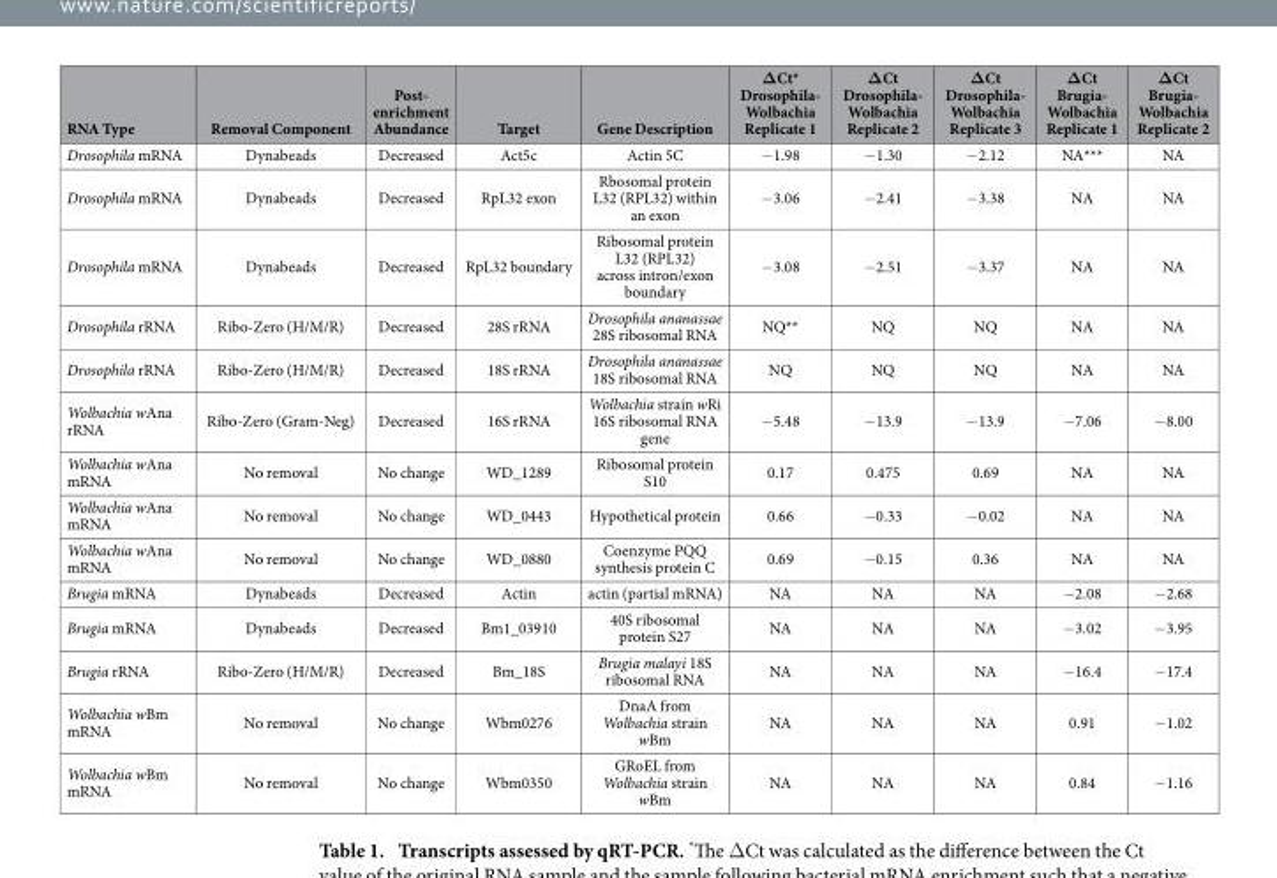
<table><thead><tr><td>RNA Type</td><td>Removal Component</td><td>Post- enrichment Abundance</td><td>Target</td><td>Gene Description</td><td>ΔCt* Drosophila- Wolbachia Replicate 1</td><td>ΔCt Drosophila- Wolbachia Replicate 2</td><td>ΔCt Drosophila- Wolbachia Replicate 3</td><td>ΔCt Brugia- Wolbachia Replicate 1</td><td>ΔCt Brugia- Wolbachia Replicate 2</td></tr></thead><tbody><tr><td>Drosophila mRNA</td><td>Dynabeads</td><td>Decreased</td><td>Act5c</td><td>Actin 5C</td><td>− 1.98</td><td>− 1.30</td><td>− 2.12</td><td>NA***</td><td>NA</td></tr><tr><td>Drosophila mRNA</td><td>Dynabeads</td><td>Decreased</td><td>RpL32 exon</td><td>Rbosomal protein L32 (RPL32) within an exon</td><td>− 3.06</td><td>− 2.41</td><td>− 3.38</td><td>NA</td><td>NA</td></tr><tr><td>Drosophila mRNA</td><td>Dynabeads</td><td>Decreased</td><td>RpL32 boundary</td><td>Ribosomal protein L32 (RPL32) across intron/exon boundary</td><td>− 3.08</td><td>− 2.51</td><td>− 3.37</td><td>NA</td><td>NA</td></tr><tr><td>Drosophila rRNA</td><td>Ribo-Zero (H/M/R)</td><td>Decreased</td><td>28S rRNA</td><td>Drosophila ananassae 28S ribosomal RNA</td><td>NQ**</td><td>NQ</td><td>NQ</td><td>NA</td><td>NA</td></tr><tr><td>Drosophila rRNA</td><td>Ribo-Zero (H/M/R)</td><td>Decreased</td><td>18S rRNA</td><td>Drosophila ananassae 18S ribosomal RNA</td><td>NQ</td><td>NQ</td><td>NQ</td><td>NA</td><td>NA</td></tr><tr><td>Wolbachia wAna rRNA</td><td>Ribo-Zero (Gram-Neg)</td><td>Decreased</td><td>16S rRNA</td><td>Wolbachia strain wRi 16S ribosomal RNA gene</td><td>− 5.48</td><td>− 13.9</td><td>− 13.9</td><td>− 7.06</td><td>− 8.00</td></tr><tr><td>Wolbachia wAna mRNA</td><td>No removal</td><td>No change</td><td>WD_1289</td><td>Ribosomal protein S10</td><td>0.17</td><td>0.475</td><td>0.69</td><td>NA</td><td>NA</td></tr><tr><td>Wolbachia wAna mRNA</td><td>No removal</td><td>No change</td><td>WD_0443</td><td>Hypothetical protein</td><td>0.66</td><td>− 0.33</td><td>− 0.02</td><td>NA</td><td>NA</td></tr><tr><td>Wolbachia wAna mRNA</td><td>No removal</td><td>No change</td><td>WD_0880</td><td>Coenzyme PQQ synthesis protein C</td><td>0.69</td><td>− 0.15</td><td>0.36</td><td>NA</td><td>NA</td></tr><tr><td>Brugia mRNA</td><td>Dynabeads</td><td>Decreased</td><td>Actin</td><td>actin (partial mRNA)</td><td>NA</td><td>NA</td><td>NA</td><td>− 2.08</td><td>− 2.68</td></tr><tr><td>Brugia mRNA</td><td>Dynabeads</td><td>Decreased</td><td>Bm1_03910</td><td>40S ribosomal protein S27</td><td>NA</td><td>NA</td><td>NA</td><td>− 3.02</td><td>− 3.95</td></tr><tr><td>Brugia rRNA</td><td>Ribo-Zero (H/M/R)</td><td>Decreased</td><td>Bm_18S</td><td>Brugia malayi 18S ribosomal RNA</td><td>NA</td><td>NA</td><td>NA</td><td>− 16.4</td><td>− 17.4</td></tr><tr><td>Wolbachia wBm mRNA</td><td>No removal</td><td>No change</td><td>Wbm0276</td><td>DnaA from Wolbachia strain wBm</td><td>NA</td><td>NA</td><td>NA</td><td>0.91</td><td>− 1.02</td></tr><tr><td>Wolbachia wBm mRNA</td><td>No removal</td><td>No change</td><td>Wbm0350</td><td>GRoEL from Wolbachia strain wBm</td><td>NA</td><td>NA</td><td>NA</td><td>0.84</td><td>− 1.16</td></tr></tbody></table>